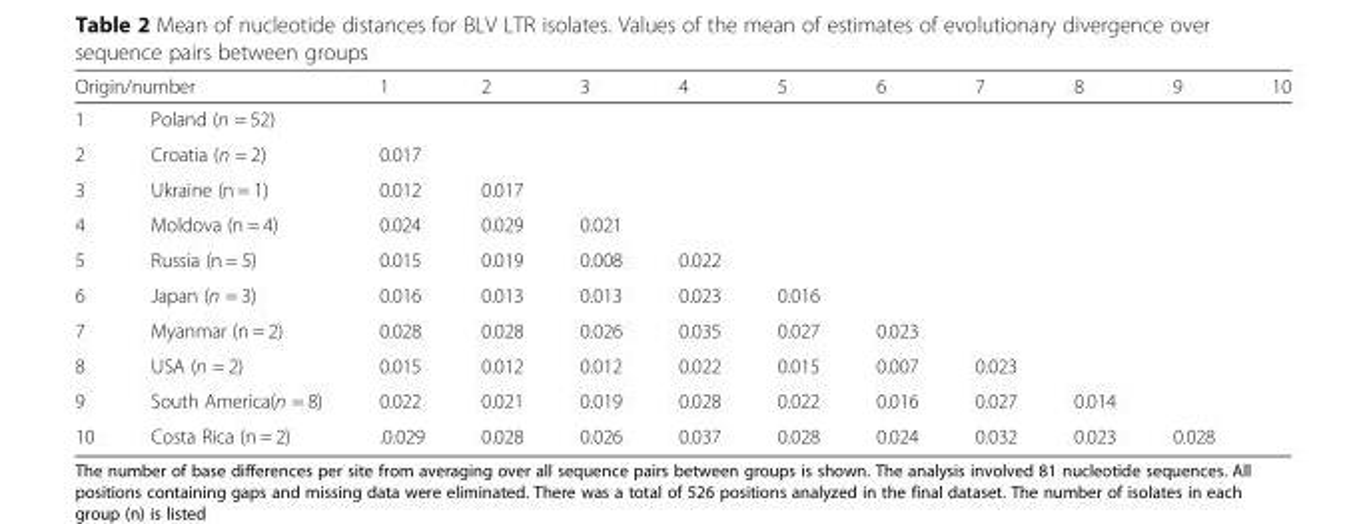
<table><thead><tr><td colspan="2">Origin/number</td><td rowspan="2">1</td><td rowspan="2">2</td><td rowspan="2">3</td><td rowspan="2">4</td><td rowspan="2">5</td><td rowspan="2">6</td><td rowspan="2">7</td><td rowspan="2">8</td><td rowspan="2">9</td><td rowspan="2">10</td></tr><tr><td>1</td><td>Poland (n = 52)</td></tr></thead><tbody><tr><td>2</td><td>Croatia (n = 2)</td><td>0.017</td><td></td><td></td><td></td><td></td><td></td><td></td><td></td><td></td><td></td></tr><tr><td>3</td><td>Ukraine (n = 1)</td><td>0.012</td><td>0.017</td><td></td><td></td><td></td><td></td><td></td><td></td><td></td><td></td></tr><tr><td>4</td><td>Moldova (n = 4)</td><td>0.024</td><td>0.029</td><td>0.021</td><td></td><td></td><td></td><td></td><td></td><td></td><td></td></tr><tr><td>5</td><td>Russia (n = 5)</td><td>0.015</td><td>0.019</td><td>0.008</td><td>0.022</td><td></td><td></td><td></td><td></td><td></td><td></td></tr><tr><td>6</td><td>Japan (n = 3)</td><td>0.016</td><td>0.013</td><td>0.013</td><td>0.023</td><td>0.016</td><td></td><td></td><td></td><td></td><td></td></tr><tr><td>7</td><td>Myanmar (n = 2)</td><td>0.028</td><td>0.028</td><td>0.026</td><td>0.035</td><td>0.027</td><td>0.023</td><td></td><td></td><td></td><td></td></tr><tr><td>8</td><td>USA (n = 2)</td><td>0.015</td><td>0.012</td><td>0.012</td><td>0.022</td><td>0.015</td><td>0.007</td><td>0.023</td><td></td><td></td><td></td></tr><tr><td>9</td><td>South America(n = 8)</td><td>0.022</td><td>0.021</td><td>0.019</td><td>0.028</td><td>0.022</td><td>0.016</td><td>0.027</td><td>0.014</td><td></td><td></td></tr><tr><td>10</td><td>Costa Rica (n = 2)</td><td>.0.029</td><td>0.028</td><td>0.026</td><td>0.037</td><td>0.028</td><td>0.024</td><td>0.032</td><td>0.023</td><td>0.028</td><td></td></tr></tbody></table>